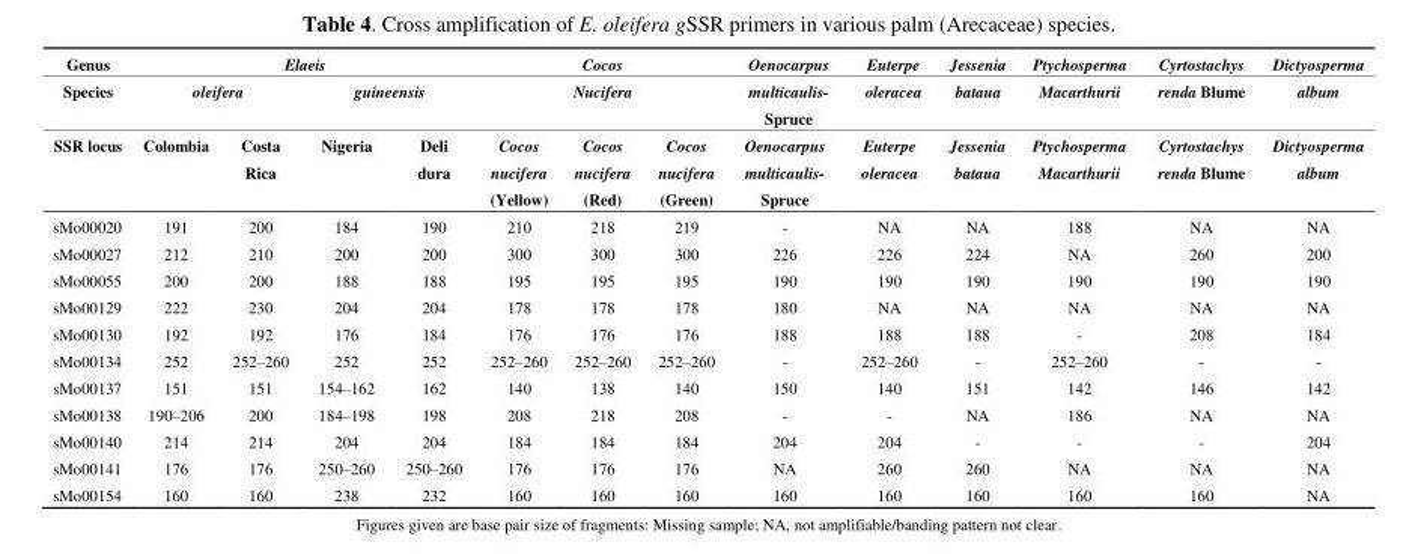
<table><thead><tr><td rowspan="3">Genus Species SSR locus</td><td colspan="4">Elaeis</td><td rowspan="2" colspan="3">Cocos Nucifera</td><td rowspan="3">Oenocarpus multicaulis- Spruce Oenocarpus multicaulis- Spruce</td><td rowspan="3">Euterpe oleracea Euterpe oleracea</td><td rowspan="3">Jessenia bataua Jessenia bataua</td><td rowspan="3">Ptychosperma Macarthurii Ptychosperma Macarthurii</td><td rowspan="3">Cyrtostachys renda Blume Cyrtostachys renda Blume</td><td rowspan="3">Dictyosperma album Dictyosperma album</td></tr><tr><td colspan="2">oleifera</td><td colspan="2">guineensis</td></tr><tr><td>Colombia</td><td>Costa Rica</td><td>Nigeria</td><td>Deli dura</td><td>Cocos nucifera (Yellow)</td><td>Cocos nucifera (Red)</td><td>Cocos nucifera (Green)</td></tr></thead><tbody><tr><td>sMo00020</td><td>191</td><td>200</td><td>184</td><td>190</td><td>210</td><td>218</td><td>219</td><td>-</td><td>NA</td><td>NA</td><td>188</td><td>NA</td><td>NA</td></tr><tr><td>sMo00027</td><td>212</td><td>210</td><td>200</td><td>200</td><td>300</td><td>300</td><td>300</td><td>226</td><td>226</td><td>224</td><td>NA</td><td>260</td><td>200</td></tr><tr><td>sMo00055</td><td>200</td><td>200</td><td>188</td><td>188</td><td>195</td><td>195</td><td>195</td><td>190</td><td>190</td><td>190</td><td>190</td><td>190</td><td>190</td></tr><tr><td>sMo00129</td><td>222</td><td>230</td><td>204</td><td>204</td><td>178</td><td>178</td><td>178</td><td>180</td><td>NA</td><td>NA</td><td>NA</td><td>NA</td><td>NA</td></tr><tr><td>sMo00130</td><td>192</td><td>192</td><td>176</td><td>184</td><td>176</td><td>176</td><td>176</td><td>188</td><td>188</td><td>188</td><td>-</td><td>208</td><td>184</td></tr><tr><td>sMo00134</td><td>252</td><td>252–260</td><td>252</td><td>252</td><td>252–260</td><td>252–260</td><td>252–260</td><td>-</td><td>252–260</td><td>-</td><td>252–260</td><td>-</td><td>-</td></tr><tr><td>sMo00137</td><td>151</td><td>151</td><td>154–162</td><td>162</td><td>140</td><td>138</td><td>140</td><td>150</td><td>140</td><td>151</td><td>142</td><td>146</td><td>142</td></tr><tr><td>sMo00138</td><td>190–206</td><td>200</td><td>184–198</td><td>198</td><td>208</td><td>218</td><td>208</td><td>-</td><td>-</td><td>NA</td><td>186</td><td>NA</td><td>NA</td></tr><tr><td>sMo00140</td><td>214</td><td>214</td><td>204</td><td>204</td><td>184</td><td>184</td><td>184</td><td>204</td><td>204</td><td>-</td><td>-</td><td>-</td><td>204</td></tr><tr><td>sMo00141</td><td>176</td><td>176</td><td>250–260</td><td>250–260</td><td>176</td><td>176</td><td>176</td><td>NA</td><td>260</td><td>260</td><td>NA</td><td>NA</td><td>NA</td></tr><tr><td>sMo00154</td><td>160</td><td>160</td><td>238</td><td>232</td><td>160</td><td>160</td><td>160</td><td>160</td><td>160</td><td>160</td><td>160</td><td>160</td><td>NA</td></tr></tbody></table>